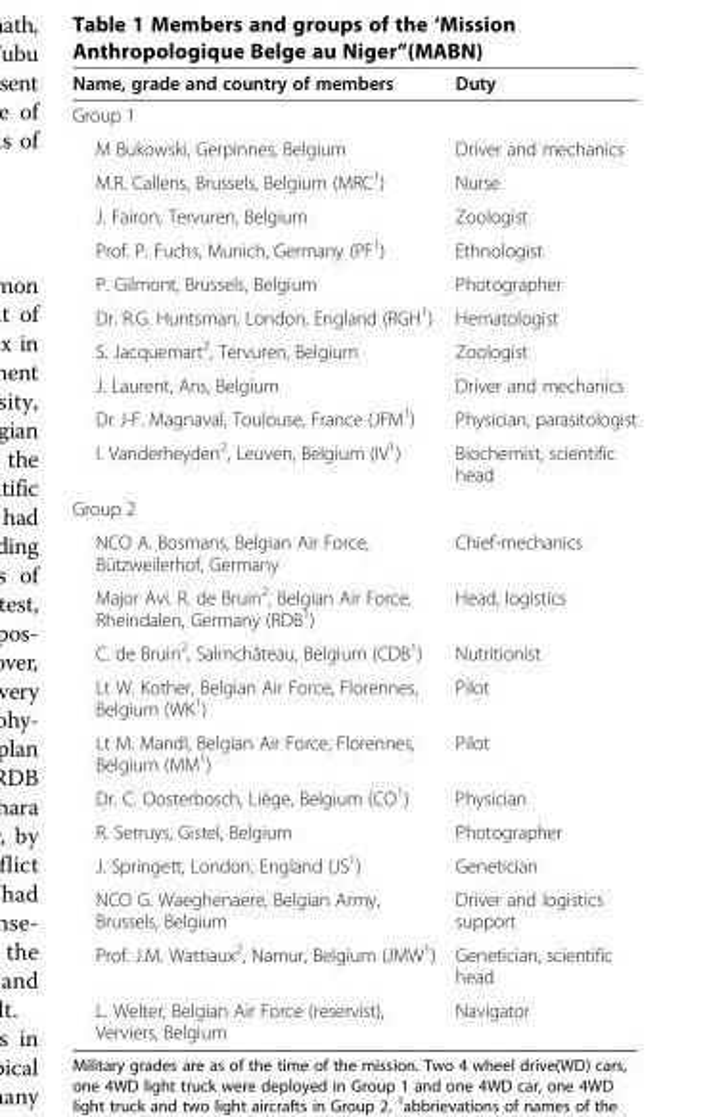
<table><thead><tr><td>Name, grade and country of members</td><td>Duty</td></tr></thead><tbody><tr><td colspan="2">Group 1</td></tr><tr><td>M Bukowski, Gerpinnes, Belgium</td><td>Driver and mechanics</td></tr><tr><td>M.R. Callens, Brussels, Belgium (MRC<sup>1</sup>)</td><td>Nurse</td></tr><tr><td>J. Fairon, Tervuren, Belgium</td><td>Zoologist</td></tr><tr><td>Prof. P. Fuchs, Munich, Germany (PF<sup>1</sup>)</td><td>Ethnologist</td></tr><tr><td>P. Gilmont, Brussels, Belgium</td><td>Photographer</td></tr><tr><td>Dr. R.G. Huntsman, London, England (RGH<sup>1</sup>)</td><td>Hematologist</td></tr><tr><td>S. Jacquemart<sup>2</sup>, Tervuren, Belgium</td><td>Zoologist</td></tr><tr><td>J. Laurent, Ans, Belgium</td><td>Driver and mechanics</td></tr><tr><td>Dr J-F. Magnaval, Toulouse, France (JFM<sup>1</sup>)</td><td>Physician, parasitologist</td></tr><tr><td>I. Vanderheyden<sup>2</sup>, Leuven, Belgium (IV<sup>1</sup>)</td><td>Biochemist, scientific head</td></tr><tr><td colspan="2">Group 2</td></tr><tr><td>NCO A. Bosmans, Belgian Air Force, Bützweilerhof, Germany</td><td>Chief-mechanics</td></tr><tr><td>Major Avi. R. de Bruin<sup>2</sup>, Belgian Air Force, Rheindalen, Germany (RDB<sup>1</sup>)</td><td>Head, logistics</td></tr><tr><td>C. de Bruin<sup>2</sup>, Salmchâteau, Belgium (CDB<sup>1</sup>)</td><td>Nutritionist</td></tr><tr><td>Lt W. Kother, Belgian Air Force, Florennes, Belgium (WK<sup>1</sup>)</td><td>Pilot</td></tr><tr><td>Lt M. Mandl, Belgian Air Force, Florennes, Belgium (MM<sup>1</sup>)</td><td>Pilot</td></tr><tr><td>Dr. C. Oosterbosch, Liège, Belgium (CO<sup>1</sup>)</td><td>Physician</td></tr><tr><td>R. Serruys, Gistel, Belgium</td><td>Photographer</td></tr><tr><td>J. Springett, London, England (JS<sup>1</sup>)</td><td>Genetician</td></tr><tr><td>NCO G. Waeghenaere, Belgian Army, Brussels, Belgium</td><td>Driver and logistics support</td></tr><tr><td>Prof. J.M. Wattiaux<sup>2</sup>, Namur, Belgium (JMW<sup>1</sup>)</td><td>Genetician, scientific head</td></tr><tr><td>L. Welter, Belgian Air Force (reservist), Verviers, Belgium</td><td>Navigator</td></tr></tbody></table>